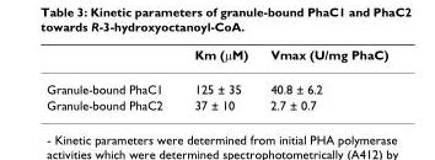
<table><thead><tr><td></td><td>Km (μM)</td><td>Vmax (U/mg PhaC)</td></tr></thead><tbody><tr><td>Granule-bound PhaC1</td><td>125 ± 35</td><td>40.8 ± 6.2</td></tr><tr><td>Granule-bound PhaC2</td><td>37 ± 10</td><td>2.7 ± 0.7</td></tr></tbody></table>